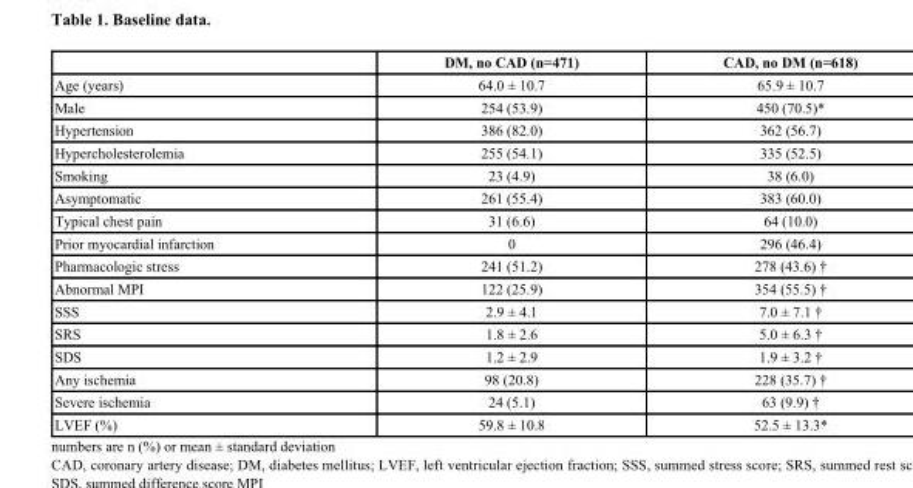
<table><thead><tr><td></td><td>DM, no CAD (n=471)</td><td>CAD, no DM (n=618)</td></tr></thead><tbody><tr><td>Age (years)</td><td>64.0 ± 10.7</td><td>65.9 ± 10.7</td></tr><tr><td>Male</td><td>254 (53.9)</td><td>450 (70.5)*</td></tr><tr><td>Hypertension</td><td>386 (82.0)</td><td>362 (56.7)</td></tr><tr><td>Hypercholesterolemia</td><td>255 (54.1)</td><td>335 (52.5)</td></tr><tr><td>Smoking</td><td>23 (4.9)</td><td>38 (6.0)</td></tr><tr><td>Asymptomatic</td><td>261 (55.4)</td><td>383 (60.0)</td></tr><tr><td>Typical chest pain</td><td>31 (6.6)</td><td>64 (10.0)</td></tr><tr><td>Prior myocardial infarction</td><td>0</td><td>296 (46.4)</td></tr><tr><td>Pharmacologic stress</td><td>241 (51.2)</td><td>278 (43.6) †</td></tr><tr><td>Abnormal MPI</td><td>122 (25.9)</td><td>354 (55.5) †</td></tr><tr><td>SSS</td><td>2.9 ± 4.1</td><td>7.0 ± 7.1 †</td></tr><tr><td>SRS</td><td>1.8 ± 2.6</td><td>5.0 ± 6.3 †</td></tr><tr><td>SDS</td><td>1.2 ± 2.9</td><td>1.9 ± 3.2 †</td></tr><tr><td>Any ischemia</td><td>98 (20.8)</td><td>228 (35.7) †</td></tr><tr><td>Severe ischemia</td><td>24 (5.1)</td><td>63 (9.9) †</td></tr><tr><td>LVEF (%)</td><td>59.8 ± 10.8</td><td>52.5 ± 13.3*</td></tr></tbody></table>